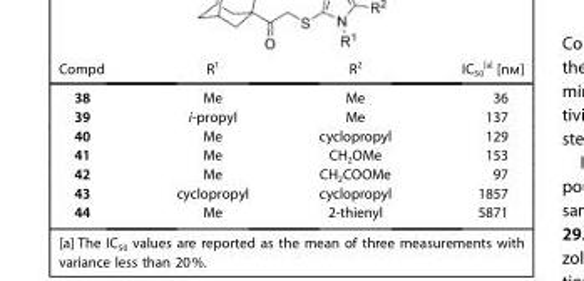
<table><thead><tr><td>Compd</td><td>R<sup>1</sup></td><td>R<sup>2</sup></td><td>IC<sub>50</sub> [a] [nm]</td></tr></thead><tbody><tr><td>38</td><td>Me</td><td>Me</td><td>36</td></tr><tr><td>39</td><td>i-propyl</td><td>Me</td><td>137</td></tr><tr><td>40</td><td>Me</td><td>cyclopropyl</td><td>129</td></tr><tr><td>41</td><td>Me</td><td>CH<sub>2</sub>OMe</td><td>153</td></tr><tr><td>42</td><td>Me</td><td>CH<sub>2</sub>COOMe</td><td>97</td></tr><tr><td>43</td><td>cyclopropyl</td><td>cyclopropyl</td><td>1857</td></tr><tr><td>44</td><td>Me</td><td>2-thienyl</td><td>5871</td></tr></tbody></table>